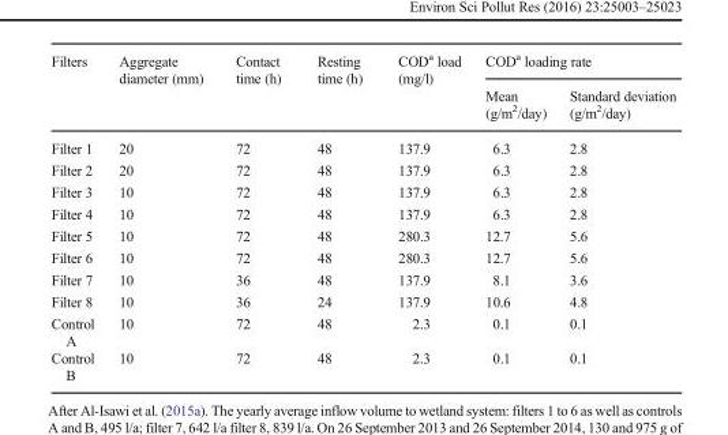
<table><thead><tr><td rowspan="2">Filters</td><td rowspan="2">Aggregate diameter (mm)</td><td rowspan="2">Contact time (h)</td><td rowspan="2">Resting time (h)</td><td rowspan="2">COD<sup>a</sup> load (mg/l)</td><td colspan="2">COD<sup>a</sup> loading rate</td></tr><tr><td>Mean (g/m<sup>2</sup>/day)</td><td>Standard deviation (g/m<sup>2</sup>/day)</td></tr></thead><tbody><tr><td>Filter 1</td><td>20</td><td>72</td><td>48</td><td>137.9</td><td>6.3</td><td>2.8</td></tr><tr><td>Filter 2</td><td>20</td><td>72</td><td>48</td><td>137.9</td><td>6.3</td><td>2.8</td></tr><tr><td>Filter 3</td><td>10</td><td>72</td><td>48</td><td>137.9</td><td>6.3</td><td>2.8</td></tr><tr><td>Filter 4</td><td>10</td><td>72</td><td>48</td><td>137.9</td><td>6.3</td><td>2.8</td></tr><tr><td>Filter 5</td><td>10</td><td>72</td><td>48</td><td>280.3</td><td>12.7</td><td>5.6</td></tr><tr><td>Filter 6</td><td>10</td><td>72</td><td>48</td><td>280.3</td><td>12.7</td><td>5.6</td></tr><tr><td>Filter 7</td><td>10</td><td>36</td><td>48</td><td>137.9</td><td>8.1</td><td>3.6</td></tr><tr><td>Filter 8</td><td>10</td><td>36</td><td>24</td><td>137.9</td><td>10.6</td><td>4.8</td></tr><tr><td>Control A</td><td>10</td><td>72</td><td>48</td><td>2.3</td><td>0.1</td><td>0.1</td></tr><tr><td>Control B</td><td>10</td><td>72</td><td>48</td><td>2.3</td><td>0.1</td><td>0.1</td></tr></tbody></table>